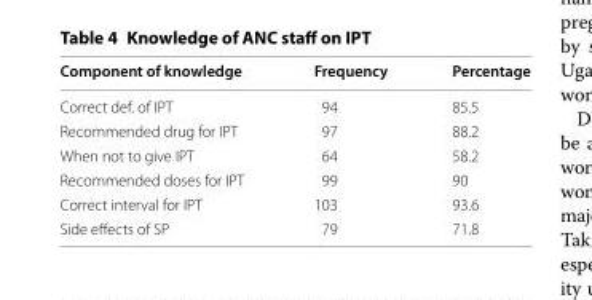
<table><thead><tr><td>Component of knowledge</td><td>Frequency</td><td>Percentage</td></tr></thead><tbody><tr><td>Correct def. of IPT</td><td>94</td><td>85.5</td></tr><tr><td>Recommended drug for IPT</td><td>97</td><td>88.2</td></tr><tr><td>When not to give IPT</td><td>64</td><td>58.2</td></tr><tr><td>Recommended doses for IPT</td><td>99</td><td>90</td></tr><tr><td>Correct interval for IPT</td><td>103</td><td>93.6</td></tr><tr><td>Side effects of SP</td><td>79</td><td>71.8</td></tr></tbody></table>